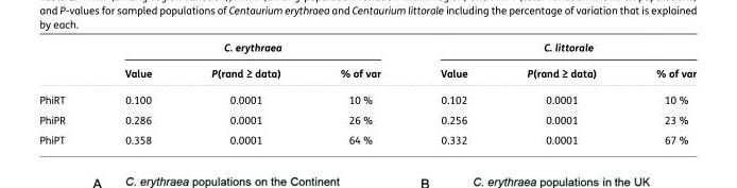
<table><thead><tr><td rowspan="2"></td><td colspan="3">C. erythraea</td><td colspan="3">C. littorale</td></tr><tr><td>Value</td><td>P(rand ≥ data)</td><td>% of var</td><td>Value</td><td>P(rand ≥ data)</td><td>% of var</td></tr></thead><tbody><tr><td>PhiRT</td><td>0.100</td><td>0.0001</td><td>10 %</td><td>0.102</td><td>0.0001</td><td>10 %</td></tr><tr><td>PhiPR</td><td>0.286</td><td>0.0001</td><td>26 %</td><td>0.256</td><td>0.0001</td><td>23 %</td></tr><tr><td>PhiPT</td><td>0.358</td><td>0.0001</td><td>64 %</td><td>0.332</td><td>0.0001</td><td>67 %</td></tr></tbody></table>